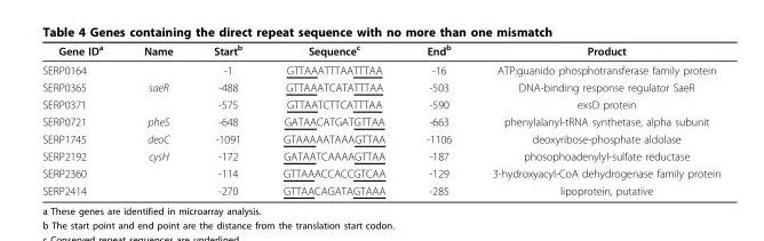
<table><thead><tr><td>Gene ID<sup>a</sup></td><td>Name</td><td>Start<sup>b</sup></td><td>Sequence<sup>c</sup></td><td>End<sup>b</sup></td><td>Product</td></tr></thead><tbody><tr><td>SERP0164</td><td></td><td>-1</td><td>GTTAAATTTAATTTAA</td><td>-16</td><td>ATP:guanido phosphotransferase family protein</td></tr><tr><td>SERP0365</td><td>saeR</td><td>-488</td><td>GTTAAATCATATTTAA</td><td>-503</td><td>DNA-binding response regulator SaeR</td></tr><tr><td>SERP0371</td><td></td><td>-575</td><td>GTTAATCTTCATTTAA</td><td>-590</td><td>exsD protein</td></tr><tr><td>SERP0721</td><td>pheS</td><td>-648</td><td>GATAACATGATGTTAA</td><td>-663</td><td>phenylalanyl-tRNA synthetase, alpha subunit</td></tr><tr><td>SERP1745</td><td>deoC</td><td>-1091</td><td>GTAAAAATAAAGTTAA</td><td>-1106</td><td>deoxyribose-phosphate aldolase</td></tr><tr><td>SERP2192</td><td>cysH</td><td>-172</td><td>GATAATCAAAAGTTAA</td><td>-187</td><td>phosophoadenylyl-sulfate reductase</td></tr><tr><td>SERP2360</td><td></td><td>-114</td><td>GTTAAACCACCGTCAA</td><td>-129</td><td>3-hydroxyacyl-CoA dehydrogenase family protein</td></tr><tr><td>SERP2414</td><td></td><td>-270</td><td>GTTAACAGATAGTAAA</td><td>-285</td><td>lipoprotein, putative</td></tr></tbody></table>